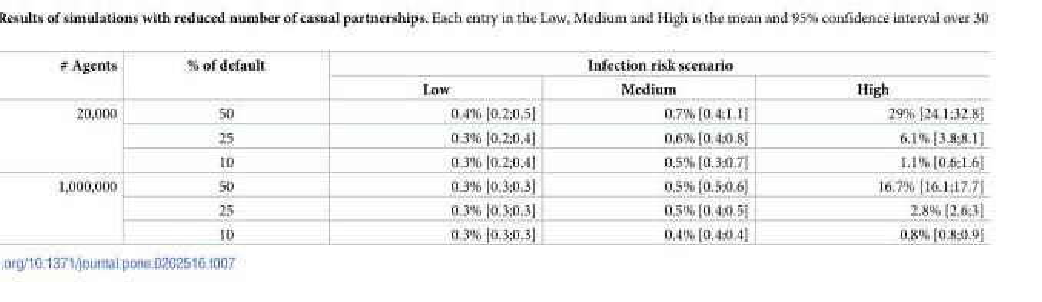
<table><thead><tr><td rowspan="2"># Agents</td><td rowspan="2">% of default</td><td colspan="3">Infection risk scenario</td></tr><tr><td>Low</td><td>Medium</td><td>High</td></tr></thead><tbody><tr><td rowspan="3">20,000</td><td>50</td><td>0.4% [0.2;0.5]</td><td>0.7% [0.4;1.1]</td><td>29% [24.1;32.8]</td></tr><tr><td>25</td><td>0.3% [0.2;0.4]</td><td>0.6% [0.4;0.8]</td><td>6.1% [3.8;8.1]</td></tr><tr><td>10</td><td>0.3% [0.2;0.4]</td><td>0.5% [0.3;0.7]</td><td>1.1% [0.6;1.6]</td></tr><tr><td rowspan="3">1,000,000</td><td>50</td><td>0.3% [0.3;0.3]</td><td>0.5% [0.5;0.6]</td><td>16.7% [16.1;17.7]</td></tr><tr><td>25</td><td>0.3% [0.3;0.3]</td><td>0.5% [0.4;0.5]</td><td>2.8% [2.6;3]</td></tr><tr><td>10</td><td>0.3% [0.3;0.3]</td><td>0.4% [0.4;0.4]</td><td>0.8% [0.8;0.9]</td></tr></tbody></table>